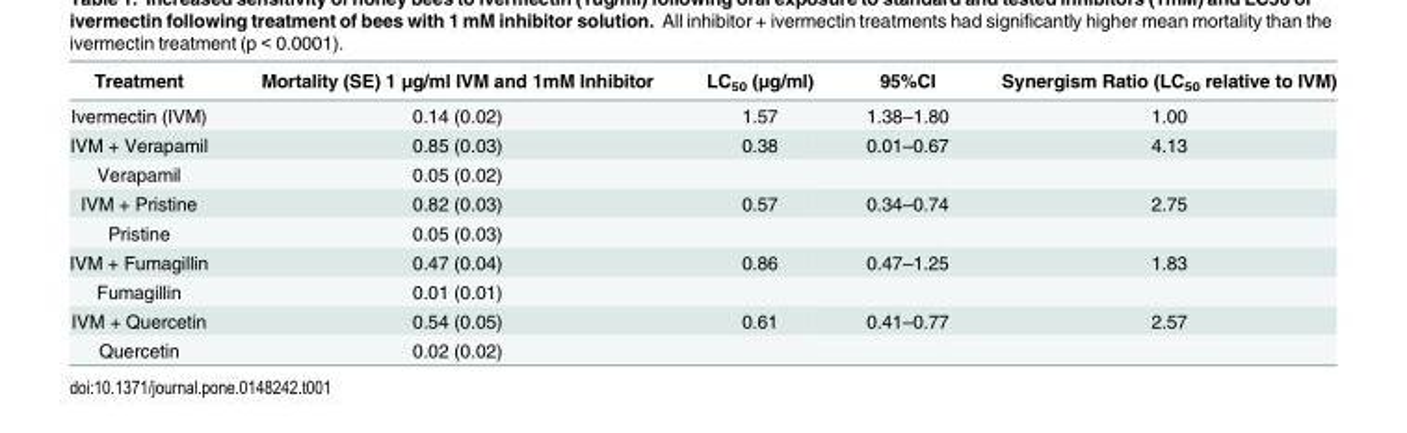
<table><thead><tr><td>Treatment</td><td>Mortality (SE) 1 μg/ml IVM and 1mM Inhibitor</td><td>LC<sub>50</sub> (μg/ml)</td><td>95%CI</td><td>Synergism Ratio (LC<sub>50</sub> relative to IVM)</td></tr></thead><tbody><tr><td>Ivermectin (IVM)</td><td>0.14 (0.02)</td><td>1.57</td><td>1.38–1.80</td><td>1.00</td></tr><tr><td>IVM + Verapamil</td><td>0.85 (0.03)</td><td>0.38</td><td>0.01–0.67</td><td>4.13</td></tr><tr><td>Verapamil</td><td>0.05 (0.02)</td><td></td><td></td><td></td></tr><tr><td>IVM + Pristine</td><td>0.82 (0.03)</td><td>0.57</td><td>0.34–0.74</td><td>2.75</td></tr><tr><td>Pristine</td><td>0.05 (0.03)</td><td></td><td></td><td></td></tr><tr><td>IVM + Fumagillin</td><td>0.47 (0.04)</td><td>0.86</td><td>0.47–1.25</td><td>1.83</td></tr><tr><td>Fumagillin</td><td>0.01 (0.01)</td><td></td><td></td><td></td></tr><tr><td>IVM + Quercetin</td><td>0.54 (0.05)</td><td>0.61</td><td>0.41–0.77</td><td>2.57</td></tr><tr><td>Quercetin</td><td>0.02 (0.02)</td><td></td><td></td><td></td></tr></tbody></table>